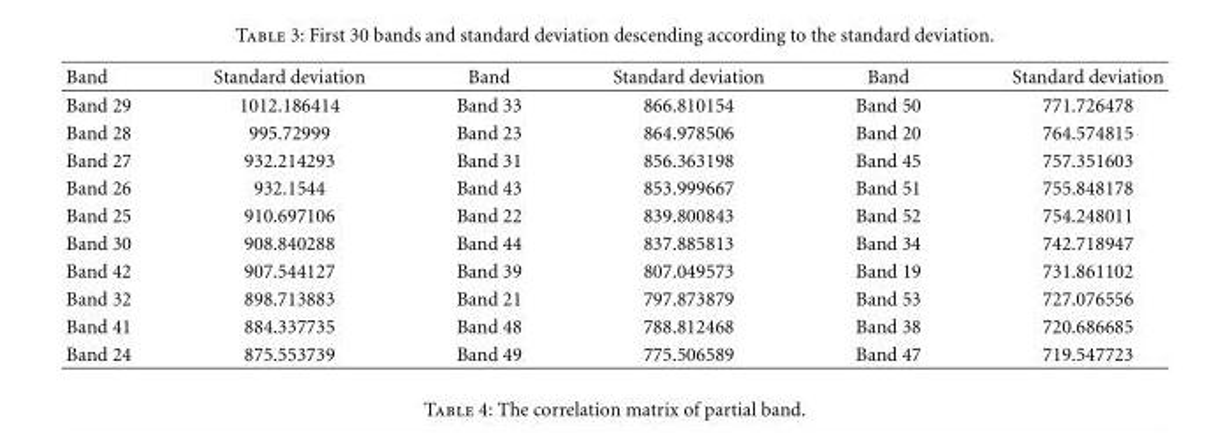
<table><thead><tr><td>Band</td><td>Standard deviation</td><td>Band</td><td>Standard deviation</td><td>Band</td><td>Standard deviation</td></tr></thead><tbody><tr><td>Band 29</td><td>1012.186414</td><td>Band 33</td><td>866.810154</td><td>Band 50</td><td>771.726478</td></tr><tr><td>Band 28</td><td>995.72999</td><td>Band 23</td><td>864.978506</td><td>Band 20</td><td>764.574815</td></tr><tr><td>Band 27</td><td>932.214293</td><td>Band 31</td><td>856.363198</td><td>Band 45</td><td>757.351603</td></tr><tr><td>Band 26</td><td>932.1544</td><td>Band 43</td><td>853.999667</td><td>Band 51</td><td>755.848178</td></tr><tr><td>Band 25</td><td>910.697106</td><td>Band 22</td><td>839.800843</td><td>Band 52</td><td>754.248011</td></tr><tr><td>Band 30</td><td>908.840288</td><td>Band 44</td><td>837.885813</td><td>Band 34</td><td>742.718947</td></tr><tr><td>Band 42</td><td>907.544127</td><td>Band 39</td><td>807.049573</td><td>Band 19</td><td>731.861102</td></tr><tr><td>Band 32</td><td>898.713883</td><td>Band 21</td><td>797.873879</td><td>Band 53</td><td>727.076556</td></tr><tr><td>Band 41</td><td>884.337735</td><td>Band 48</td><td>788.812468</td><td>Band 38</td><td>720.686685</td></tr><tr><td>Band 24</td><td>875.553739</td><td>Band 49</td><td>775.506589</td><td>Band 47</td><td>719.547723</td></tr></tbody></table>